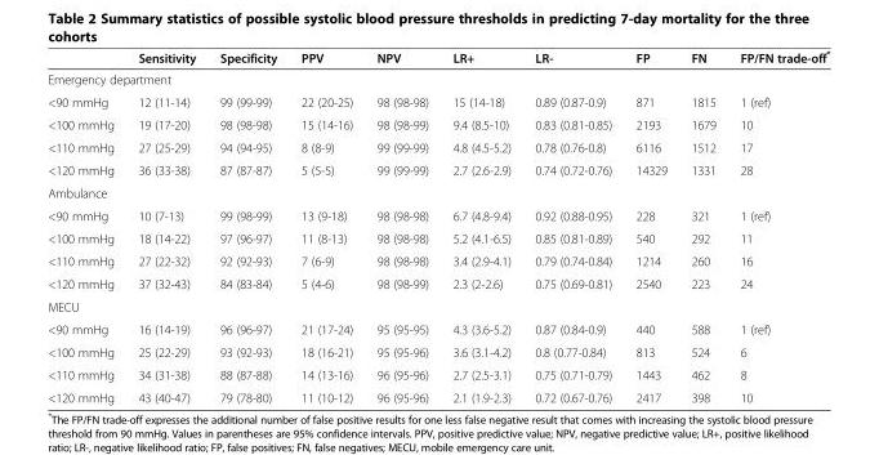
<table><thead><tr><td></td><td>Sensitivity</td><td>Specificity</td><td>PPV</td><td>NPV</td><td>LR+</td><td>LR-</td><td>FP</td><td>FN</td><td>FP/FN trade-off*</td></tr></thead><tbody><tr><td colspan="10">Emergency department</td></tr><tr><td>&lt;90 mmHg</td><td>12 (11-14)</td><td>99 (99-99)</td><td>22 (20-25)</td><td>98 (98-98)</td><td>15 (14-18)</td><td>0.89 (0.87-0.9)</td><td>871</td><td>1815</td><td>1 (ref)</td></tr><tr><td>&lt;100 mmHg</td><td>19 (17-20)</td><td>98 (98-98)</td><td>15 (14-16)</td><td>98 (98-99)</td><td>9.4 (8.5-10)</td><td>0.83 (0.81-0.85)</td><td>2193</td><td>1679</td><td>10</td></tr><tr><td>&lt;110 mmHg</td><td>27 (25-29)</td><td>94 (94-95)</td><td>8 (8-9)</td><td>99 (99-99)</td><td>4.8 (4.5-5.2)</td><td>0.78 (0.76-0.8)</td><td>6116</td><td>1512</td><td>17</td></tr><tr><td>&lt;120 mmHg</td><td>36 (33-38)</td><td>87 (87-87)</td><td>5 (5-5)</td><td>99 (99-99)</td><td>2.7 (2.6-2.9)</td><td>0.74 (0.72-0.76)</td><td>14329</td><td>1331</td><td>28</td></tr><tr><td colspan="10">Ambulance</td></tr><tr><td>&lt;90 mmHg</td><td>10 (7-13)</td><td>99 (98-99)</td><td>13 (9-18)</td><td>98 (98-98)</td><td>6.7 (4.8-9.4)</td><td>0.92 (0.88-0.95)</td><td>228</td><td>321</td><td>1 (ref)</td></tr><tr><td>&lt;100 mmHg</td><td>18 (14-22)</td><td>97 (96-97)</td><td>11 (8-13)</td><td>98 (98-98)</td><td>5.2 (4.1-6.5)</td><td>0.85 (0.81-0.89)</td><td>540</td><td>292</td><td>11</td></tr><tr><td>&lt;110 mmHg</td><td>27 (22-32)</td><td>92 (92-93)</td><td>7 (6-9)</td><td>98 (98-98)</td><td>3.4 (2.9-4.1)</td><td>0.79 (0.74-0.84)</td><td>1214</td><td>260</td><td>16</td></tr><tr><td>&lt;120 mmHg</td><td>37 (32-43)</td><td>84 (83-84)</td><td>5 (4-6)</td><td>98 (98-99)</td><td>2.3 (2-2.6)</td><td>0.75 (0.69-0.81)</td><td>2540</td><td>223</td><td>24</td></tr><tr><td colspan="10">MECU</td></tr><tr><td>&lt;90 mmHg</td><td>16 (14-19)</td><td>96 (96-97)</td><td>21 (17-24)</td><td>95 (95-95)</td><td>4.3 (3.6-5.2)</td><td>0.87 (0.84-0.9)</td><td>440</td><td>588</td><td>1 (ref)</td></tr><tr><td>&lt;100 mmHg</td><td>25 (22-29)</td><td>93 (92-93)</td><td>18 (16-21)</td><td>95 (95-96)</td><td>3.6 (3.1-4.2)</td><td>0.8 (0.77-0.84)</td><td>813</td><td>524</td><td>6</td></tr><tr><td>&lt;110 mmHg</td><td>34 (31-38)</td><td>88 (87-88)</td><td>14 (13-16)</td><td>96 (95-96)</td><td>2.7 (2.5-3.1)</td><td>0.75 (0.71-0.79)</td><td>1443</td><td>462</td><td>8</td></tr><tr><td>&lt;120 mmHg</td><td>43 (40-47)</td><td>79 (78-80)</td><td>11 (10-12)</td><td>96 (95-96)</td><td>2.1 (1.9-2.3)</td><td>0.72 (0.67-0.76)</td><td>2417</td><td>398</td><td>10</td></tr></tbody></table>